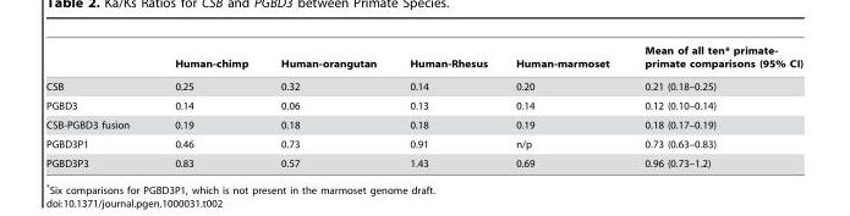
<table><thead><tr><td></td><td>Human-chimp</td><td>Human-orangutan</td><td>Human-Rhesus</td><td>Human-marmoset</td><td>Mean of all ten* primate- primate comparisons (95% CI)</td></tr></thead><tbody><tr><td>CSB</td><td>0.25</td><td>0.32</td><td>0.14</td><td>0.20</td><td>0.21 (0.18–0.25)</td></tr><tr><td>PGBD3</td><td>0.14</td><td>0.06</td><td>0.13</td><td>0.14</td><td>0.12 (0.10–0.14)</td></tr><tr><td>CSB-PGBD3 fusion</td><td>0.19</td><td>0.18</td><td>0.18</td><td>0.19</td><td>0.18 (0.17–0.19)</td></tr><tr><td>PGBD3P1</td><td>0.46</td><td>0.73</td><td>0.91</td><td>n/p</td><td>0.73 (0.63–0.83)</td></tr><tr><td>PGBD3P3</td><td>0.83</td><td>0.57</td><td>1.43</td><td>0.69</td><td>0.96 (0.73–1.2)</td></tr></tbody></table>